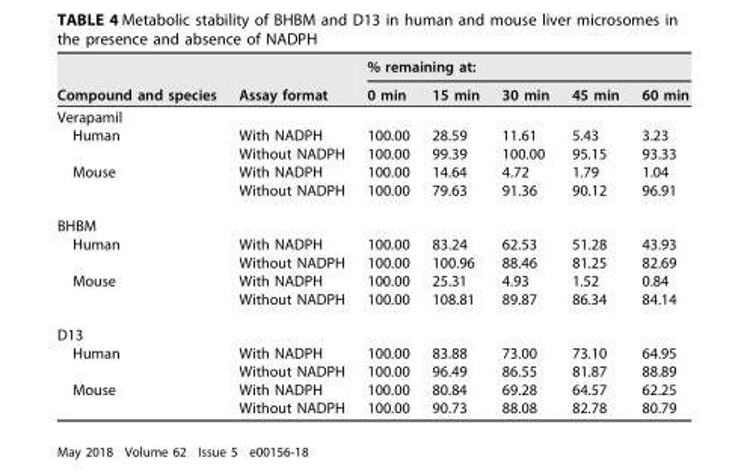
<table><thead><tr><td rowspan="2">Compound and species</td><td rowspan="2">Assay format</td><td colspan="5">% remaining at:</td></tr><tr><td>0 min</td><td>15 min</td><td>30 min</td><td>45 min</td><td>60 min</td></tr></thead><tbody><tr><td colspan="7">Verapamil</td></tr><tr><td rowspan="2">Human</td><td>With NADPH</td><td>100.00</td><td>28.59</td><td>11.61</td><td>5.43</td><td>3.23</td></tr><tr><td>Without NADPH</td><td>100.00</td><td>99.39</td><td>100.00</td><td>95.15</td><td>93.33</td></tr><tr><td rowspan="2">Mouse</td><td>With NADPH</td><td>100.00</td><td>14.64</td><td>4.72</td><td>1.79</td><td>1.04</td></tr><tr><td>Without NADPH</td><td>100.00</td><td>79.63</td><td>91.36</td><td>90.12</td><td>96.91</td></tr><tr><td colspan="7">BHBM</td></tr><tr><td rowspan="2">Human</td><td>With NADPH</td><td>100.00</td><td>83.24</td><td>62.53</td><td>51.28</td><td>43.93</td></tr><tr><td>Without NADPH</td><td>100.00</td><td>100.96</td><td>88.46</td><td>81.25</td><td>82.69</td></tr><tr><td rowspan="2">Mouse</td><td>With NADPH</td><td>100.00</td><td>25.31</td><td>4.93</td><td>1.52</td><td>0.84</td></tr><tr><td>Without NADPH</td><td>100.00</td><td>108.81</td><td>89.87</td><td>86.34</td><td>84.14</td></tr><tr><td colspan="7">D13</td></tr><tr><td rowspan="2">Human</td><td>With NADPH</td><td>100.00</td><td>83.88</td><td>73.00</td><td>73.10</td><td>64.95</td></tr><tr><td>Without NADPH</td><td>100.00</td><td>96.49</td><td>86.55</td><td>81.87</td><td>88.89</td></tr><tr><td rowspan="2">Mouse</td><td>With NADPH</td><td>100.00</td><td>80.84</td><td>69.28</td><td>64.57</td><td>62.25</td></tr><tr><td>Without NADPH</td><td>100.00</td><td>90.73</td><td>88.08</td><td>82.78</td><td>80.79</td></tr></tbody></table>